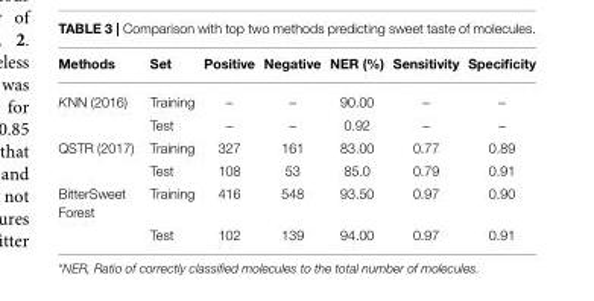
<table><thead><tr><td>Methods</td><td>Set</td><td>Positive</td><td>Negative</td><td>NER (%)</td><td>Sensitivity</td><td>Specificity</td></tr></thead><tbody><tr><td rowspan="2">KNN (2016)</td><td>Training</td><td>–</td><td>–</td><td>90.00</td><td>–</td><td>–</td></tr><tr><td>Test</td><td>–</td><td>–</td><td>0.92</td><td>–</td><td>–</td></tr><tr><td rowspan="2">QSTR (2017)</td><td>Training</td><td>327</td><td>161</td><td>83.00</td><td>0.77</td><td>0.89</td></tr><tr><td>Test</td><td>108</td><td>53</td><td>85.0</td><td>0.79</td><td>0.91</td></tr><tr><td rowspan="2">BitterSweet Forest</td><td>Training</td><td>416</td><td>548</td><td>93.50</td><td>0.97</td><td>0.90</td></tr><tr><td>Test</td><td>102</td><td>139</td><td>94.00</td><td>0.97</td><td>0.91</td></tr></tbody></table>